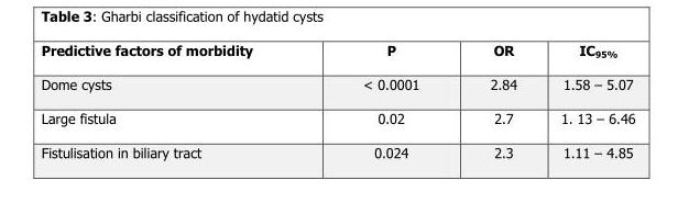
<table><thead><tr><td>Predictive factors of morbidity</td><td>P</td><td>OR</td><td>IC<sub>95%</sub></td></tr></thead><tbody><tr><td>Dome cysts</td><td>&lt; 0.0001</td><td>2.84</td><td>1.58 – 5.07</td></tr><tr><td>Large fistula</td><td>0.02</td><td>2.7</td><td>1. 13 – 6.46</td></tr><tr><td>Fistulisation in biliary tract</td><td>0.024</td><td>2.3</td><td>1.11 – 4.85</td></tr></tbody></table>